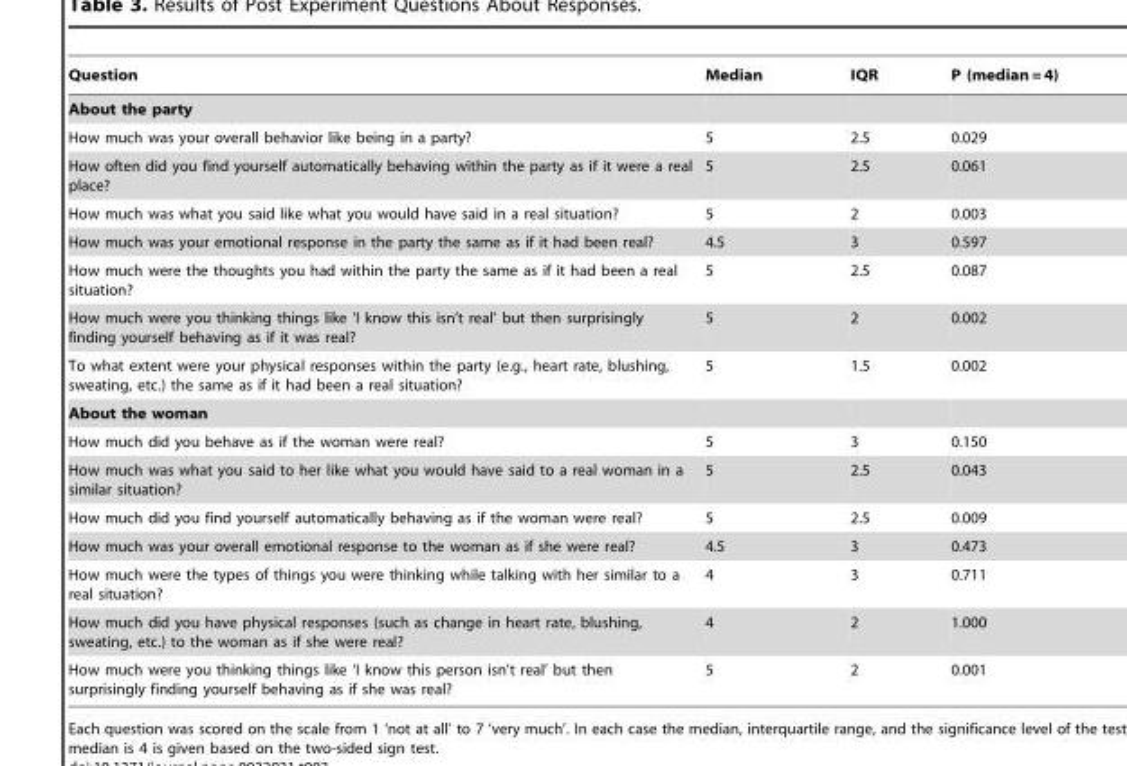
<table><thead><tr><td>Question</td><td>Median</td><td>IQR</td><td>P (median = 4)</td></tr></thead><tbody><tr><td colspan="4">About the party</td></tr><tr><td>How much was your overall behavior like being in a party?</td><td>5</td><td>2.5</td><td>0.029</td></tr><tr><td>How often did you find yourself automatically behaving within the party as if it were a real place?</td><td>5</td><td>2.5</td><td>0.061</td></tr><tr><td>How much was what you said like what you would have said in a real situation?</td><td>5</td><td>2</td><td>0.003</td></tr><tr><td>How much was your emotional response in the party the same as if it had been real?</td><td>4.5</td><td>3</td><td>0.597</td></tr><tr><td>How much were the thoughts you had within the party the same as if it had been a real situation?</td><td>5</td><td>2.5</td><td>0.087</td></tr><tr><td>How much were you thinking things like ‘I know this isn’t real’ but then surprisingly finding yourself behaving as if it was real?</td><td>5</td><td>2</td><td>0.002</td></tr><tr><td>To what extent were your physical responses within the party (e.g., heart rate, blushing, sweating, etc.) the same as if it had been a real situation?</td><td>5</td><td>1.5</td><td>0.002</td></tr><tr><td colspan="4">About the woman</td></tr><tr><td>How much did you behave as if the woman were real?</td><td>5</td><td>3</td><td>0.150</td></tr><tr><td>How much was what you said to her like what you would have said to a real woman in a similar situation?</td><td>5</td><td>2.5</td><td>0.043</td></tr><tr><td>How much did you find yourself automatically behaving as if the woman were real?</td><td>5</td><td>2.5</td><td>0.009</td></tr><tr><td>How much was your overall emotional response to the woman as if she were real?</td><td>4.5</td><td>3</td><td>0.473</td></tr><tr><td>How much were the types of things you were thinking while talking with her similar to a real situation?</td><td>4</td><td>3</td><td>0.711</td></tr><tr><td>How much did you have physical responses (such as change in heart rate, blushing, sweating, etc.) to the woman as if she were real?</td><td>4</td><td>2</td><td>1.000</td></tr><tr><td>How much were you thinking things like ‘I know this person isn’t real’ but then surprisingly finding yourself behaving as if she was real?</td><td>5</td><td>2</td><td>0.001</td></tr></tbody></table>